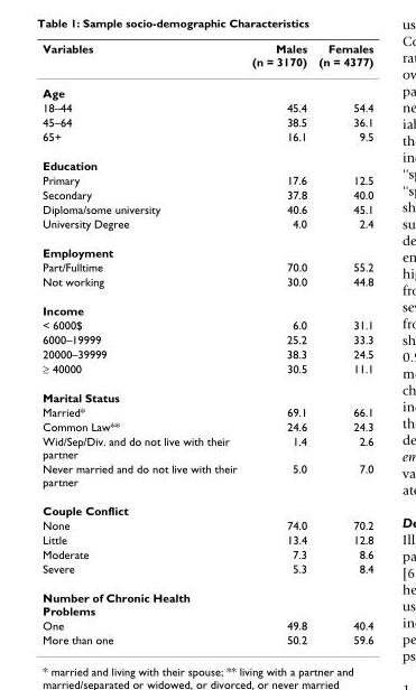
<table><thead><tr><td>Variables</td><td>Males (n = 3170)</td><td>Females (n = 4377)</td></tr></thead><tbody><tr><td colspan="3">Age</td></tr><tr><td>18–44</td><td>45.4</td><td>54.4</td></tr><tr><td>45–64</td><td>38.5</td><td>36.1</td></tr><tr><td>65+</td><td>16.1</td><td>9.5</td></tr><tr><td colspan="3">Education</td></tr><tr><td>Primary</td><td>17.6</td><td>12.5</td></tr><tr><td>Secondary</td><td>37.8</td><td>40.0</td></tr><tr><td>Diploma/some university</td><td>40.6</td><td>45.1</td></tr><tr><td>University Degree</td><td>4.0</td><td>2.4</td></tr><tr><td colspan="3">Employment</td></tr><tr><td>Part/Fulltime</td><td>70.0</td><td>55.2</td></tr><tr><td>Not working</td><td>30.0</td><td>44.8</td></tr><tr><td colspan="3">Income</td></tr><tr><td>&lt; 6000$</td><td>6.0</td><td>31.1</td></tr><tr><td>6000–19999</td><td>25.2</td><td>33.3</td></tr><tr><td>20000–39999</td><td>38.3</td><td>24.5</td></tr><tr><td>≥ 40000</td><td>30.5</td><td>11.1</td></tr><tr><td colspan="3">Marital Status</td></tr><tr><td>Married*</td><td>69.1</td><td>66.1</td></tr><tr><td>Common Law**</td><td>24.6</td><td>24.3</td></tr><tr><td>Wid/Sep/Div. and do not live with their partner</td><td>1.4</td><td>2.6</td></tr><tr><td>Never married and do not live with their partner</td><td>5.0</td><td>7.0</td></tr><tr><td colspan="3">Couple Conflict</td></tr><tr><td>None</td><td>74.0</td><td>70.2</td></tr><tr><td>Little</td><td>13.4</td><td>12.8</td></tr><tr><td>Moderate</td><td>7.3</td><td>8.6</td></tr><tr><td>Severe</td><td>5.3</td><td>8.4</td></tr><tr><td colspan="3">Number of Chronic Health Problems</td></tr><tr><td>One</td><td>49.8</td><td>40.4</td></tr><tr><td>More than one</td><td>50.2</td><td>59.6</td></tr></tbody></table>